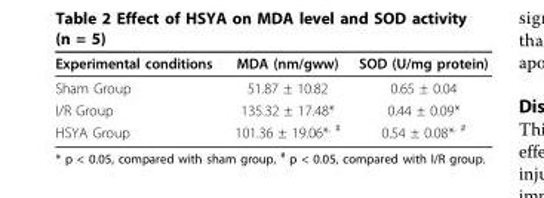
<table><thead><tr><td>Experimental conditions</td><td>MDA (nm/gww)</td><td>SOD (U/mg protein)</td></tr></thead><tbody><tr><td>Sham Group</td><td>51.87 ± 10.82</td><td>0.65 ± 0.04</td></tr><tr><td>I/R Group</td><td>135.32 ± 17.48*</td><td>0.44 ± 0.09*</td></tr><tr><td>HSYA Group</td><td>101.36 ± 19.06*<sup>, #</sup></td><td>0.54 ± 0.08*<sup>, #</sup></td></tr></tbody></table>